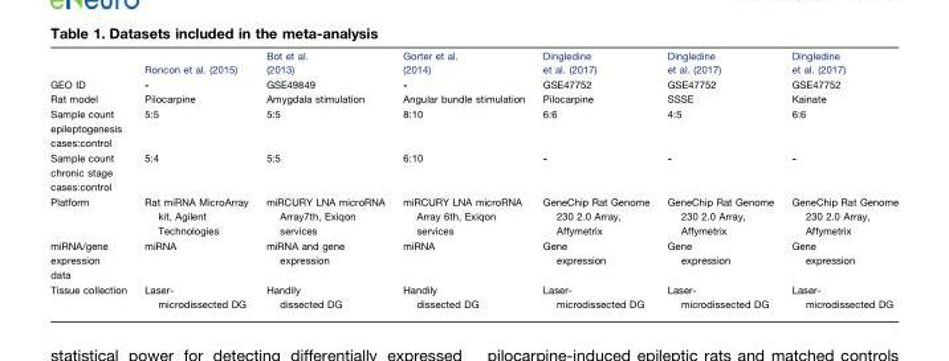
<table><thead><tr><td></td><td>Roncon et al. (2015)</td><td>Bot et al. (2013)</td><td>Gorter et al. (2014)</td><td>Dingledine et al. (2017)</td><td>Dingledine et al. (2017)</td><td>Dingledine et al. (2017)</td></tr></thead><tbody><tr><td>GEO ID</td><td>-</td><td>GSE49849</td><td>-</td><td>GSE47752</td><td>GSE47752</td><td>GSE47752</td></tr><tr><td>Rat model</td><td>Pilocarpine</td><td>Amygdala stimulation</td><td>Angular bundle stimulation</td><td>Pilocarpine</td><td>SSSE</td><td>Kainate</td></tr><tr><td>Sample count epileptogenesis cases:control</td><td>5:5</td><td>5:5</td><td>8:10</td><td>6:6</td><td>4:5</td><td>6:6</td></tr><tr><td>Sample count chronic stage cases:control</td><td>5:4</td><td>5:5</td><td>6:10</td><td>-</td><td>-</td><td>-</td></tr><tr><td>Platform</td><td>Rat miRNA MicroArray kit, Agilent Technologies</td><td>miRCURY LNA microRNA Array7th, Exiqon services</td><td>miRCURY LNA microRNA Array 6th, Exiqon services</td><td>GeneChip Rat Genome 230 2.0 Array, Affymetrix</td><td>GeneChip Rat Genome 230 2.0 Array, Affymetrix</td><td>GeneChip Rat Genome 230 2.0 Array, Affymetrix</td></tr><tr><td>miRNA/gene expression data</td><td>miRNA</td><td>miRNA and gene expression</td><td>miRNA</td><td>Gene expression</td><td>Gene expression</td><td>Gene expression</td></tr><tr><td>Tissue collection</td><td>Laser- microdissected DG</td><td>Handily dissected DG</td><td>Handily dissected DG</td><td>Laser- microdissected DG</td><td>Laser- microdissected DG</td><td>Laser- microdissected DG</td></tr></tbody></table>